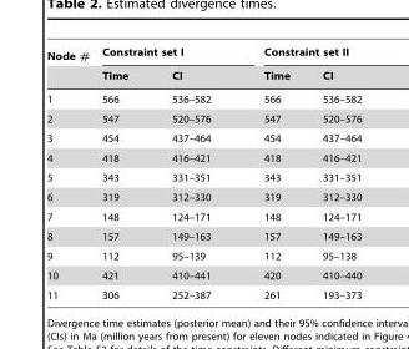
<table><thead><tr><td rowspan="2">Node #</td><td colspan="2">Constraint set I</td><td colspan="2">Constraint set II</td></tr><tr><td>Time</td><td>CI</td><td>Time</td><td>CI</td></tr></thead><tbody><tr><td>1</td><td>566</td><td>536–582</td><td>566</td><td>536–582</td></tr><tr><td>2</td><td>547</td><td>520–576</td><td>547</td><td>520–576</td></tr><tr><td>3</td><td>454</td><td>437–464</td><td>454</td><td>437–464</td></tr><tr><td>4</td><td>418</td><td>416–421</td><td>418</td><td>416–421</td></tr><tr><td>5</td><td>343</td><td>331–351</td><td>343</td><td>331–351</td></tr><tr><td>6</td><td>319</td><td>312–330</td><td>319</td><td>312–330</td></tr><tr><td>7</td><td>148</td><td>124–171</td><td>148</td><td>124–171</td></tr><tr><td>8</td><td>157</td><td>149–163</td><td>157</td><td>149–163</td></tr><tr><td>9</td><td>112</td><td>95–139</td><td>112</td><td>95–138</td></tr><tr><td>10</td><td>421</td><td>410–441</td><td>420</td><td>410–440</td></tr><tr><td>11</td><td>306</td><td>252–387</td><td>261</td><td>193–373</td></tr></tbody></table>